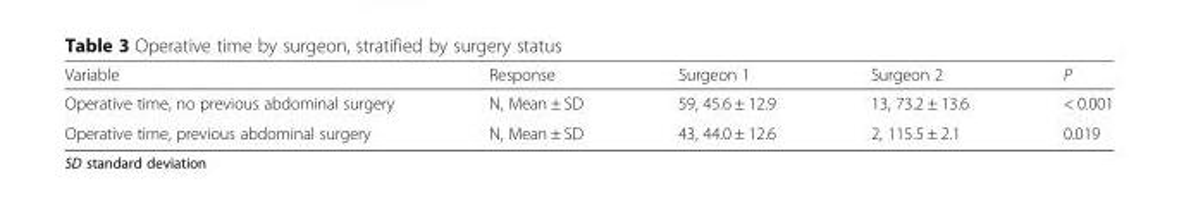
<table><thead><tr><td>Variable</td><td>Response</td><td>Surgeon 1</td><td>Surgeon 2</td><td>P</td></tr></thead><tbody><tr><td>Operative time, no previous abdominal surgery</td><td>N, Mean ± SD</td><td>59, 45.6 ± 12.9</td><td>13, 73.2 ± 13.6</td><td>&lt; 0.001</td></tr><tr><td>Operative time, previous abdominal surgery</td><td>N, Mean ± SD</td><td>43, 44.0 ± 12.6</td><td>2, 115.5 ± 2.1</td><td>0.019</td></tr></tbody></table>